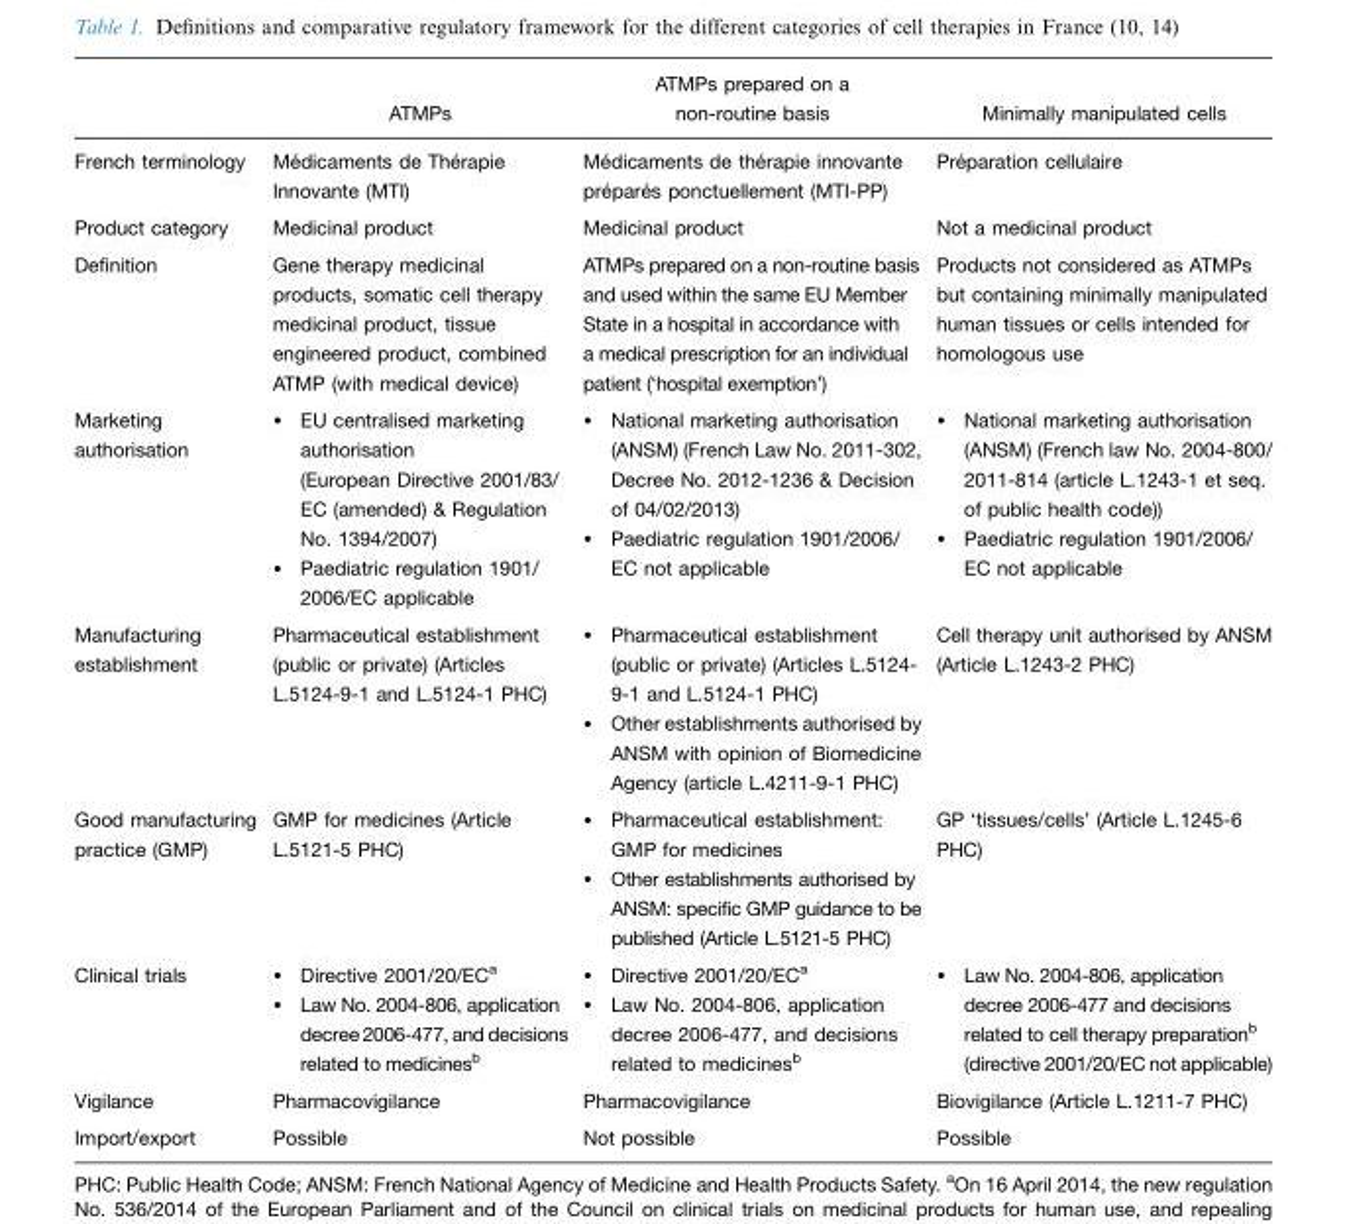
<table><thead><tr><td></td><td>ATMPs</td><td>ATMPs prepared on a non-routine basis</td><td>Minimally manipulated cells</td></tr></thead><tbody><tr><td>French terminology</td><td>Me´ dicaments de The´ rapie Innovante (MTI)</td><td>Me´ dicaments de the´ rapie innovante pre´ pare´ s ponctuellement (MTI-PP)</td><td>Pre´ paration cellulaire</td></tr><tr><td>Product category</td><td>Medicinal product</td><td>Medicinal product</td><td>Not a medicinal product</td></tr><tr><td>Definition</td><td>Gene therapy medicinal products, somatic cell therapy medicinal product, tissue engineered product, combined ATMP (with medical device)</td><td>ATMPs prepared on a non-routine basis and used within the same EU Member State in a hospital in accordance with a medical prescription for an individual patient (‘hospital exemption’)</td><td>Products not considered as ATMPs but containing minimally manipulated human tissues or cells intended for homologous use</td></tr><tr><td>Marketing authorisation</td><td>• EU centralised marketing authorisation (European Directive 2001/83/ EC (amended) &amp; Regulation No. 1394/2007) • Paediatric regulation 1901/ 2006/EC applicable</td><td>• National marketing authorisation (ANSM) (French Law No. 2011-302, Decree No. 2012-1236 &amp; Decision of 04/02/2013) • Paediatric regulation 1901/2006/ EC not applicable</td><td>• National marketing authorisation (ANSM) (French law No. 2004-800/ 2011-814 (article L.1243-1 et seq. of public health code)) • Paediatric regulation 1901/2006/ EC not applicable</td></tr><tr><td>Manufacturing establishment</td><td>Pharmaceutical establishment (public or private) (Articles L.5124-9-1 and L.5124-1 PHC)</td><td>• Pharmaceutical establishment (public or private) (Articles L.5124- 9-1 and L.5124-1 PHC) • Other establishments authorised by ANSM with opinion of Biomedicine Agency (article L.4211-9-1 PHC)</td><td>Cell therapy unit authorised by ANSM (Article L.1243-2 PHC)</td></tr><tr><td>Good manufacturing practice (GMP)</td><td>GMP for medicines (Article L.5121-5 PHC)</td><td>• Pharmaceutical establishment: GMP for medicines • Other establishments authorised by ANSM: specific GMP guidance to be published (Article L.5121-5 PHC)</td><td>GP ‘tissues/cells’ (Article L.1245-6 PHC)</td></tr><tr><td>Clinical trials</td><td>• Directive 2001/20/EC<sup>a</sup> • Law No. 2004-806, application decree 2006-477, and decisions related to medicines<sup>b</sup></td><td>• Directive 2001/20/EC<sup>a</sup> • Law No. 2004-806, application decree 2006-477, and decisions related to medicines<sup>b</sup></td><td>• Law No. 2004-806, application decree 2006-477 and decisions related to cell therapy preparation<sup>b</sup> (directive 2001/20/EC not applicable)</td></tr><tr><td>Vigilance</td><td>Pharmacovigilance</td><td>Pharmacovigilance</td><td>Biovigilance (Article L.1211-7 PHC)</td></tr><tr><td>Import/export</td><td>Possible</td><td>Not possible</td><td>Possible</td></tr></tbody></table>